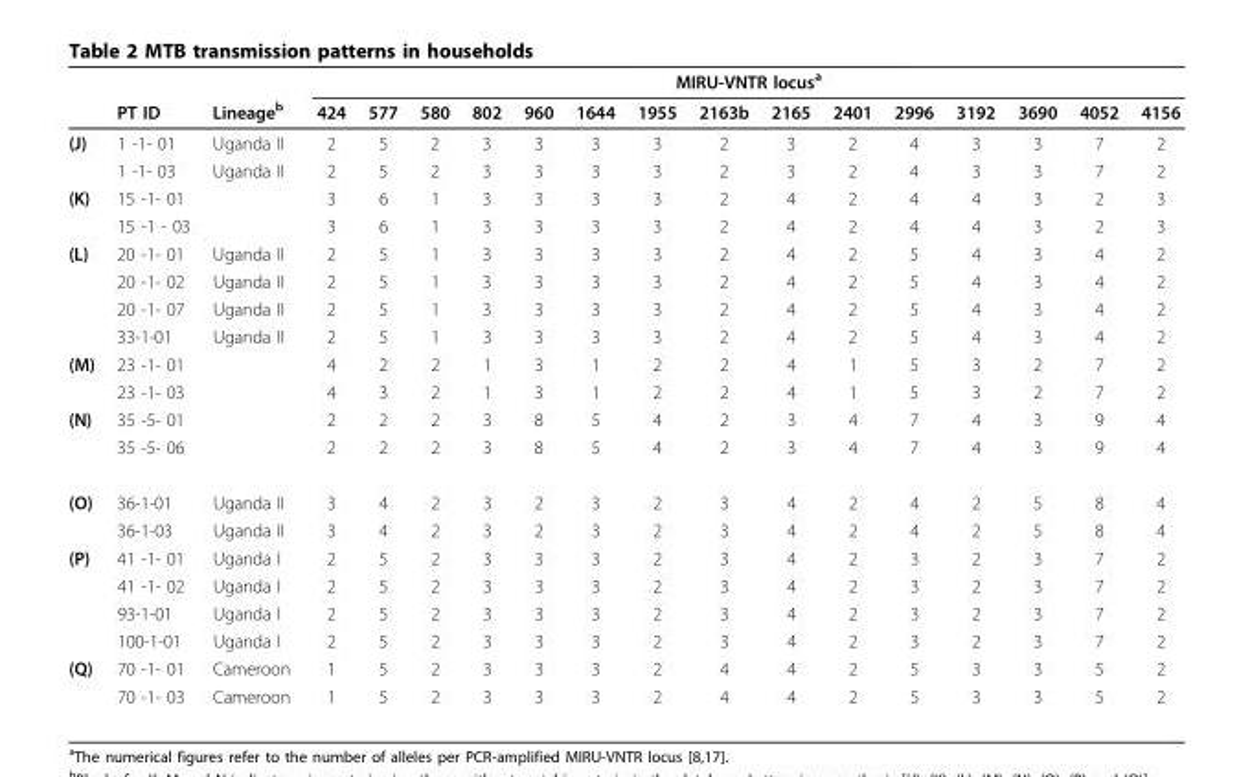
<table><thead><tr><td rowspan="2"></td><td rowspan="2">PT ID</td><td rowspan="2">Lineage<sup>b</sup></td><td colspan="15">MIRU-VNTR locus<sup>a</sup></td></tr><tr><td>424</td><td>577</td><td>580</td><td>802</td><td>960</td><td>1644</td><td>1955</td><td>2163b</td><td>2165</td><td>2401</td><td>2996</td><td>3192</td><td>3690</td><td>4052</td><td>4156</td></tr></thead><tbody><tr><td rowspan="2">(J)</td><td>1 -1- 01</td><td>Uganda II</td><td>2</td><td>5</td><td>2</td><td>3</td><td>3</td><td>3</td><td>3</td><td>2</td><td>3</td><td>2</td><td>4</td><td>3</td><td>3</td><td>7</td><td>2</td></tr><tr><td>1 -1- 03</td><td>Uganda II</td><td>2</td><td>5</td><td>2</td><td>3</td><td>3</td><td>3</td><td>3</td><td>2</td><td>3</td><td>2</td><td>4</td><td>3</td><td>3</td><td>7</td><td>2</td></tr><tr><td rowspan="2">(K)</td><td>15 -1- 01</td><td></td><td>3</td><td>6</td><td>1</td><td>3</td><td>3</td><td>3</td><td>3</td><td>2</td><td>4</td><td>2</td><td>4</td><td>4</td><td>3</td><td>2</td><td>3</td></tr><tr><td>15 -1 - 03</td><td></td><td>3</td><td>6</td><td>1</td><td>3</td><td>3</td><td>3</td><td>3</td><td>2</td><td>4</td><td>2</td><td>4</td><td>4</td><td>3</td><td>2</td><td>3</td></tr><tr><td rowspan="4">(L)</td><td>20 -1- 01</td><td>Uganda II</td><td>2</td><td>5</td><td>1</td><td>3</td><td>3</td><td>3</td><td>3</td><td>2</td><td>4</td><td>2</td><td>5</td><td>4</td><td>3</td><td>4</td><td>2</td></tr><tr><td>20 -1- 02</td><td>Uganda II</td><td>2</td><td>5</td><td>1</td><td>3</td><td>3</td><td>3</td><td>3</td><td>2</td><td>4</td><td>2</td><td>5</td><td>4</td><td>3</td><td>4</td><td>2</td></tr><tr><td>20 -1- 07</td><td>Uganda II</td><td>2</td><td>5</td><td>1</td><td>3</td><td>3</td><td>3</td><td>3</td><td>2</td><td>4</td><td>2</td><td>5</td><td>4</td><td>3</td><td>4</td><td>2</td></tr><tr><td>33-1-01</td><td>Uganda II</td><td>2</td><td>5</td><td>1</td><td>3</td><td>3</td><td>3</td><td>3</td><td>2</td><td>4</td><td>2</td><td>5</td><td>4</td><td>3</td><td>4</td><td>2</td></tr><tr><td rowspan="2">(M)</td><td>23 -1- 01</td><td></td><td>4</td><td>2</td><td>2</td><td>1</td><td>3</td><td>1</td><td>2</td><td>2</td><td>4</td><td>1</td><td>5</td><td>3</td><td>2</td><td>7</td><td>2</td></tr><tr><td>23 -1- 03</td><td></td><td>4</td><td>3</td><td>2</td><td>1</td><td>3</td><td>1</td><td>2</td><td>2</td><td>4</td><td>1</td><td>5</td><td>3</td><td>2</td><td>7</td><td>2</td></tr><tr><td rowspan="2">(N)</td><td>35 -5- 01</td><td></td><td>2</td><td>2</td><td>2</td><td>3</td><td>8</td><td>5</td><td>4</td><td>2</td><td>3</td><td>4</td><td>7</td><td>4</td><td>3</td><td>9</td><td>4</td></tr><tr><td>35 -5- 06</td><td></td><td>2</td><td>2</td><td>2</td><td>3</td><td>8</td><td>5</td><td>4</td><td>2</td><td>3</td><td>4</td><td>7</td><td>4</td><td>3</td><td>9</td><td>4</td></tr><tr><td rowspan="2">(O)</td><td>36-1-01</td><td>Uganda II</td><td>3</td><td>4</td><td>2</td><td>3</td><td>2</td><td>3</td><td>2</td><td>3</td><td>4</td><td>2</td><td>4</td><td>2</td><td>5</td><td>8</td><td>4</td></tr><tr><td>36-1-03</td><td>Uganda II</td><td>3</td><td>4</td><td>2</td><td>3</td><td>2</td><td>3</td><td>2</td><td>3</td><td>4</td><td>2</td><td>4</td><td>2</td><td>5</td><td>8</td><td>4</td></tr><tr><td rowspan="4">(P)</td><td>41 -1- 01</td><td>Uganda I</td><td>2</td><td>5</td><td>2</td><td>3</td><td>3</td><td>3</td><td>2</td><td>3</td><td>4</td><td>2</td><td>3</td><td>2</td><td>3</td><td>7</td><td>2</td></tr><tr><td>41 -1- 02</td><td>Uganda I</td><td>2</td><td>5</td><td>2</td><td>3</td><td>3</td><td>3</td><td>2</td><td>3</td><td>4</td><td>2</td><td>3</td><td>2</td><td>3</td><td>7</td><td>2</td></tr><tr><td>93-1-01</td><td>Uganda I</td><td>2</td><td>5</td><td>2</td><td>3</td><td>3</td><td>3</td><td>2</td><td>3</td><td>4</td><td>2</td><td>3</td><td>2</td><td>3</td><td>7</td><td>2</td></tr><tr><td>100-1-01</td><td>Uganda I</td><td>2</td><td>5</td><td>2</td><td>3</td><td>3</td><td>3</td><td>2</td><td>3</td><td>4</td><td>2</td><td>3</td><td>2</td><td>3</td><td>7</td><td>2</td></tr><tr><td rowspan="2">(Q)</td><td>70 -1- 01</td><td>Cameroon</td><td>1</td><td>5</td><td>2</td><td>3</td><td>3</td><td>3</td><td>2</td><td>4</td><td>4</td><td>2</td><td>5</td><td>3</td><td>3</td><td>5</td><td>2</td></tr><tr><td>70 -1- 03</td><td>Cameroon</td><td>1</td><td>5</td><td>2</td><td>3</td><td>3</td><td>3</td><td>2</td><td>4</td><td>4</td><td>2</td><td>5</td><td>3</td><td>3</td><td>5</td><td>2</td></tr></tbody></table>